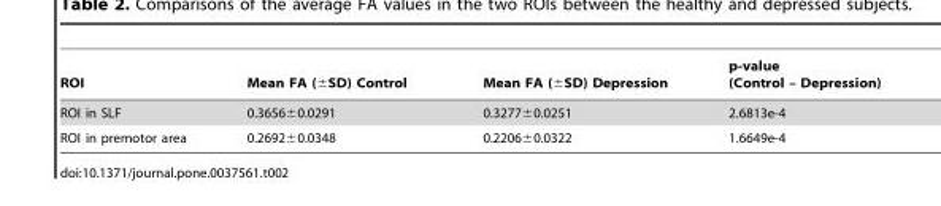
<table><thead><tr><td>ROI</td><td>Mean FA (±SD) Control</td><td>Mean FA (±SD) Depression</td><td>p-value (Control – Depression)</td></tr></thead><tbody><tr><td>ROI in SLF</td><td>0.3656±0.0291</td><td>0.3277±0.0251</td><td>2.6813e-4</td></tr><tr><td>ROI in premotor area</td><td>0.2692±0.0348</td><td>0.2206±0.0322</td><td>1.6649e-4</td></tr></tbody></table>